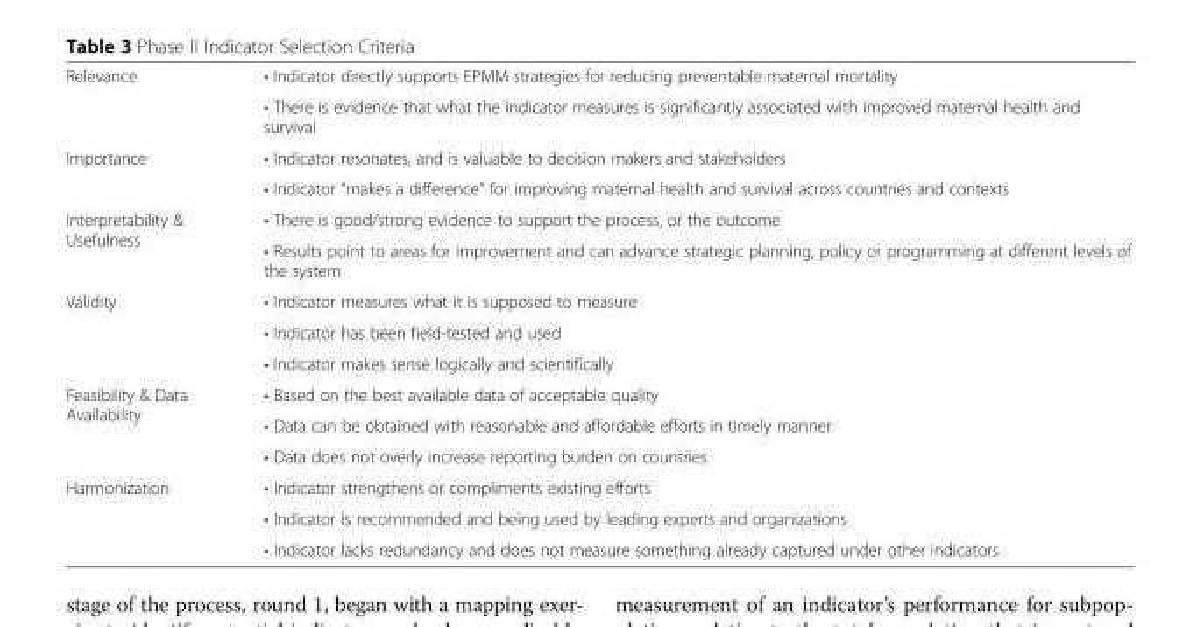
<table><tbody><tr><td rowspan="2">Relevance</td><td>• Indicator directly supports EPMM strategies for reducing preventable maternal mortality</td></tr><tr><td>• There is evidence that what the indicator measures is significantly associated with improved maternal health and survival</td></tr><tr><td rowspan="2">Importance</td><td>• Indicator resonates, and is valuable to decision makers and stakeholders</td></tr><tr><td>• Indicator “makes a difference” for improving maternal health and survival across countries and contexts</td></tr><tr><td rowspan="2">Interpretability &amp; Usefulness</td><td>• There is good/strong evidence to support the process, or the outcome</td></tr><tr><td>• Results point to areas for improvement and can advance strategic planning, policy or programming at different levels of the system</td></tr><tr><td rowspan="3">Validity</td><td>• Indicator measures what it is supposed to measure</td></tr><tr><td>• Indicator has been field-tested and used</td></tr><tr><td>• Indicator makes sense logically and scientifically</td></tr><tr><td rowspan="3">Feasibility &amp; Data Availability</td><td>• Based on the best available data of acceptable quality</td></tr><tr><td>• Data can be obtained with reasonable and affordable efforts in timely manner</td></tr><tr><td>• Data does not overly increase reporting burden on countries</td></tr><tr><td rowspan="3">Harmonization</td><td>• Indicator strengthens or compliments existing efforts</td></tr><tr><td>• Indicator is recommended and being used by leading experts and organizations</td></tr><tr><td>• Indicator lacks redundancy and does not measure something already captured under other indicators</td></tr></tbody></table>